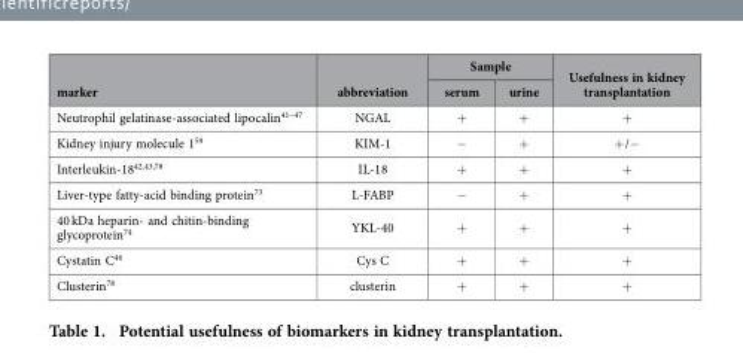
<table><thead><tr><td rowspan="2">marker</td><td rowspan="2">abbreviation</td><td colspan="2">Sample</td><td rowspan="2">Usefulness in kidney transplantation</td></tr><tr><td>serum</td><td>urine</td></tr></thead><tbody><tr><td>Neutrophil gelatinase-associated lipocalin41–47</td><td>NGAL</td><td>+</td><td>+</td><td>+</td></tr><tr><td>Kidney injury molecule 1<sup>59</sup></td><td>KIM-1</td><td>−</td><td>+</td><td>+ /−</td></tr><tr><td>Interleukin-18<sup>42</sup>,<sup>43</sup>,<sup>78</sup></td><td>IL-18</td><td>+</td><td>+</td><td>+</td></tr><tr><td>Liver-type fatty-acid binding protein<sup>73</sup></td><td>L-FABP</td><td>−</td><td>+</td><td>+</td></tr><tr><td>40 kDa heparin- and chitin-binding glycoprotein<sup>74</sup></td><td>YKL-40</td><td>+</td><td>+</td><td>+</td></tr><tr><td>Cystatin C<sup>46</sup></td><td>Cys C</td><td>+</td><td>+</td><td>+</td></tr><tr><td>Clusterin<sup>78</sup></td><td>clusterin</td><td>+</td><td>+</td><td>+</td></tr></tbody></table>